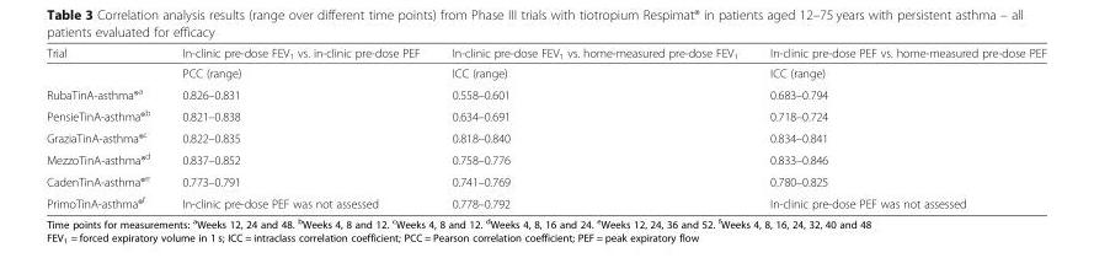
<table><thead><tr><td>Trial</td><td>In-clinic pre-dose FEV<sub>1</sub> vs. in-clinic pre-dose PEF</td><td>In-clinic pre-dose FEV<sub>1</sub> vs. home-measured pre-dose FEV<sub>1</sub></td><td>In-clinic pre-dose PEF vs. home-measured pre-dose PEF</td></tr></thead><tbody><tr><td></td><td>PCC (range)</td><td>ICC (range)</td><td>ICC (range)</td></tr><tr><td>RubaTinA-asthma®<sup>a</sup></td><td>0.826–0.831</td><td>0.558–0.601</td><td>0.683–0.794</td></tr><tr><td>PensieTinA-asthma®<sup>b</sup></td><td>0.821–0.838</td><td>0.634–0.691</td><td>0.718–0.724</td></tr><tr><td>GraziaTinA-asthma®<sup>c</sup></td><td>0.822–0.835</td><td>0.818–0.840</td><td>0.834–0.841</td></tr><tr><td>MezzoTinA-asthma®<sup>d</sup></td><td>0.837–0.852</td><td>0.758–0.776</td><td>0.833–0.846</td></tr><tr><td>CadenTinA-asthma®<sup>e</sup></td><td>0.773–0.791</td><td>0.741–0.769</td><td>0.780–0.825</td></tr><tr><td>PrimoTinA-asthma®<sup>f</sup></td><td>In-clinic pre-dose PEF was not assessed</td><td>0.778–0.792</td><td>In-clinic pre-dose PEF was not assessed</td></tr></tbody></table>